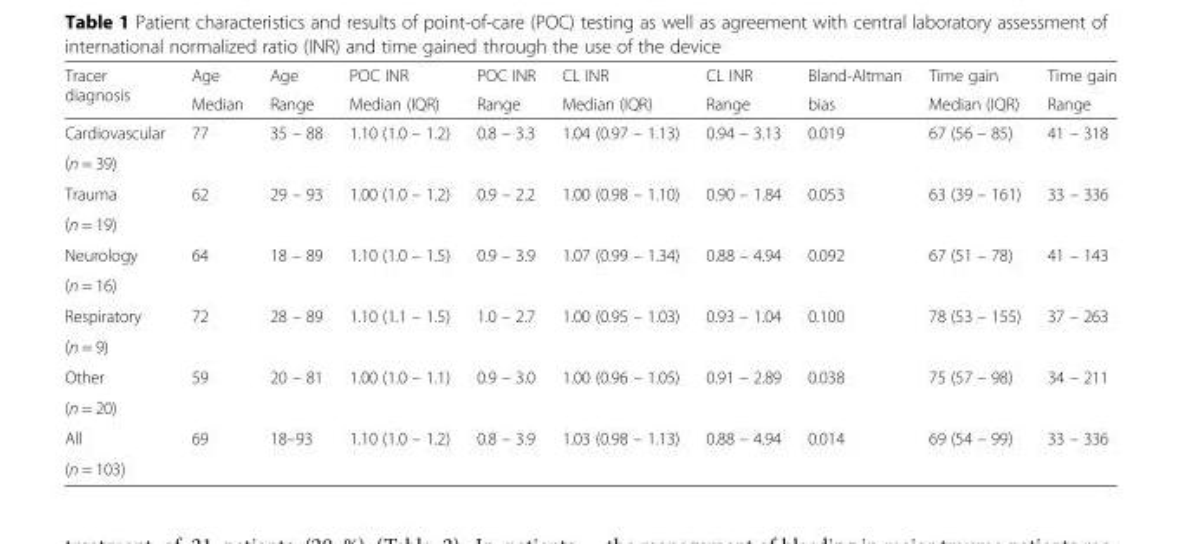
<table><thead><tr><td rowspan="2">Tracer diagnosis</td><td rowspan="2">Age Median</td><td rowspan="2">Age Range</td><td rowspan="2">POC INR Median (IQR)</td><td rowspan="2">POC INR Range</td><td rowspan="2">CL INR Median (IQR)</td><td rowspan="2">CL INR Range</td><td rowspan="2">Bland-Altman bias</td><td rowspan="2">Time gain Median (IQR)</td><td rowspan="2">Time gain Range</td></tr><tr></tr></thead><tbody><tr><td>Cardiovascular</td><td rowspan="2">77</td><td rowspan="2">35 – 88</td><td rowspan="2">1.10 (1.0 – 1.2)</td><td rowspan="2">0.8 – 3.3</td><td rowspan="2">1.04 (0.97 – 1.13)</td><td rowspan="2">0.94 – 3.13</td><td rowspan="2">0.019</td><td rowspan="2">67 (56 – 85)</td><td rowspan="2">41 – 318</td></tr><tr><td>(n = 39)</td></tr><tr><td>Trauma</td><td rowspan="2">62</td><td rowspan="2">29 – 93</td><td rowspan="2">1.00 (1.0 – 1.2)</td><td rowspan="2">0.9 – 2.2</td><td rowspan="2">1.00 (0.98 – 1.10)</td><td rowspan="2">0.90 – 1.84</td><td rowspan="2">0.053</td><td rowspan="2">63 (39 – 161)</td><td rowspan="2">33 – 336</td></tr><tr><td>(n = 19)</td></tr><tr><td>Neurology</td><td rowspan="2">64</td><td rowspan="2">18 – 89</td><td rowspan="2">1.10 (1.0 – 1.5)</td><td rowspan="2">0.9 – 3.9</td><td rowspan="2">1.07 (0.99 – 1.34)</td><td rowspan="2">0.88 – 4.94</td><td rowspan="2">0.092</td><td rowspan="2">67 (51 – 78)</td><td rowspan="2">41 – 143</td></tr><tr><td>(n = 16)</td></tr><tr><td>Respiratory</td><td rowspan="2">72</td><td rowspan="2">28 – 89</td><td rowspan="2">1.10 (1.1 – 1.5)</td><td rowspan="2">1.0 – 2.7</td><td rowspan="2">1.00 (0.95 – 1.03)</td><td rowspan="2">0.93 – 1.04</td><td rowspan="2">0.100</td><td rowspan="2">78 (53 – 155)</td><td rowspan="2">37 – 263</td></tr><tr><td>(n = 9)</td></tr><tr><td>Other</td><td rowspan="2">59</td><td rowspan="2">20 – 81</td><td rowspan="2">1.00 (1.0 – 1.1)</td><td rowspan="2">0.9 – 3.0</td><td rowspan="2">1.00 (0.96 – 1.05)</td><td rowspan="2">0.91 – 2.89</td><td rowspan="2">0.038</td><td rowspan="2">75 (57 – 98)</td><td rowspan="2">34 – 211</td></tr><tr><td>(n = 20)</td></tr><tr><td>All</td><td rowspan="2">69</td><td rowspan="2">18–93</td><td rowspan="2">1.10 (1.0 – 1.2)</td><td rowspan="2">0.8 – 3.9</td><td rowspan="2">1.03 (0.98 – 1.13)</td><td rowspan="2">0.88 – 4.94</td><td rowspan="2">0.014</td><td rowspan="2">69 (54 – 99)</td><td rowspan="2">33 – 336</td></tr><tr><td>(n = 103)</td></tr></tbody></table>